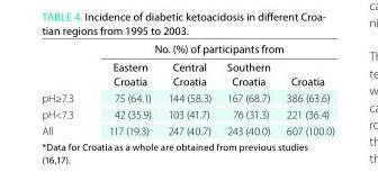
<table><thead><tr><td rowspan="2"></td><td colspan="4">no. (%) of participants from</td></tr><tr><td>eastern Croatia</td><td>Central Croatia</td><td>Southern Croatia</td><td>Croatia</td></tr></thead><tbody><tr><td>pH≥7.3</td><td>75 (64.1)</td><td>144 (58.3)</td><td>167 (68.7)</td><td>386 (63.6)</td></tr><tr><td>pH&lt;7.3</td><td>42 (35.9)</td><td>103 (41.7)</td><td>76 (31.3)</td><td>221 (36.4)</td></tr><tr><td>All</td><td>117 (19.3)</td><td>247 (40.7)</td><td>243 (40.0)</td><td>607 (100.0)</td></tr></tbody></table>